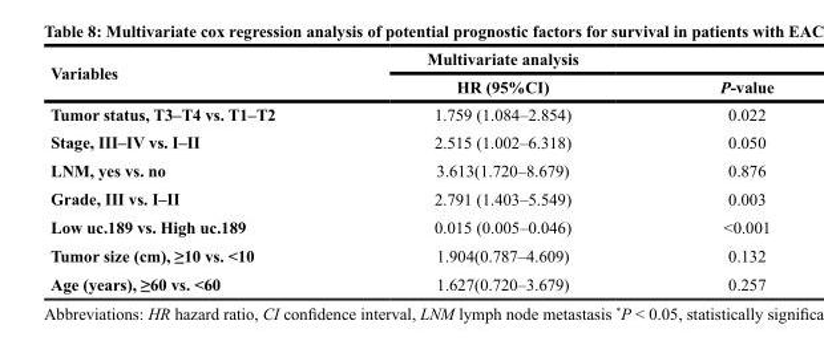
<table><thead><tr><td rowspan="2">Variables</td><td rowspan="2">Multivariate analysis HR (95%CI)</td><td rowspan="2">P-value</td></tr><tr></tr></thead><tbody><tr><td>Tumor status, T3–T4 vs. T1–T2</td><td>1.759 (1.084–2.854)</td><td>0.022</td></tr><tr><td>Stage, III–IV vs. I–II</td><td>2.515 (1.002–6.318)</td><td>0.050</td></tr><tr><td>LNM, yes vs. no</td><td>3.613(1.720–8.679)</td><td>0.876</td></tr><tr><td>Grade, III vs. I–II</td><td>2.791 (1.403–5.549)</td><td>0.003</td></tr><tr><td>Low uc.189 vs. High uc.189</td><td>0.015 (0.005–0.046)</td><td>&lt;0.001</td></tr><tr><td>Tumor size (cm), ≥10 vs. &lt;10</td><td>1.904(0.787–4.609)</td><td>0.132</td></tr><tr><td>Age (years), ≥60 vs. &lt;60</td><td>1.627(0.720–3.679)</td><td>0.257</td></tr></tbody></table>